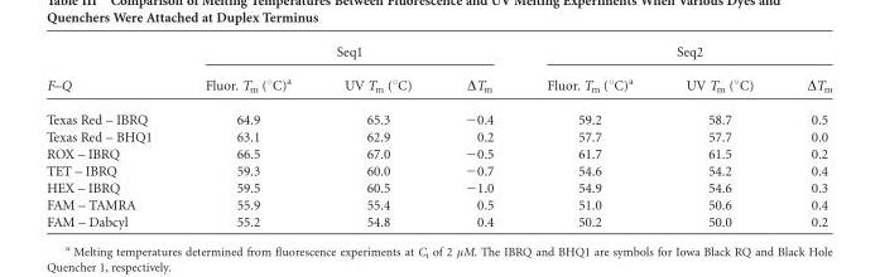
<table><thead><tr><td rowspan="2">F–Q</td><td colspan="3">Seq1</td><td colspan="3">Seq2</td></tr><tr><td>Fluor. T<sub>m</sub> (°C)<sup>a</sup></td><td>UV T<sub>m</sub> (°C)</td><td>ΔT<sub>m</sub></td><td>Fluor. T<sub>m</sub> (°C)<sup>a</sup></td><td>UV T<sub>m</sub> (°C)</td><td>ΔT<sub>m</sub></td></tr></thead><tbody><tr><td>Texas Red – IBRQ</td><td>64.9</td><td>65.3</td><td>−0.4</td><td>59.2</td><td>58.7</td><td>0.5</td></tr><tr><td>Texas Red – BHQ1</td><td>63.1</td><td>62.9</td><td>0.2</td><td>57.7</td><td>57.7</td><td>0.0</td></tr><tr><td>ROX – IBRQ</td><td>66.5</td><td>67.0</td><td>−0.5</td><td>61.7</td><td>61.5</td><td>0.2</td></tr><tr><td>TET – IBRQ</td><td>59.3</td><td>60.0</td><td>−0.7</td><td>54.6</td><td>54.2</td><td>0.4</td></tr><tr><td>HEX – IBRQ</td><td>59.5</td><td>60.5</td><td>−1.0</td><td>54.9</td><td>54.6</td><td>0.3</td></tr><tr><td>FAM – TAMRA</td><td>55.9</td><td>55.4</td><td>0.5</td><td>51.0</td><td>50.6</td><td>0.4</td></tr><tr><td>FAM – Dabcyl</td><td>55.2</td><td>54.8</td><td>0.4</td><td>50.2</td><td>50.0</td><td>0.2</td></tr></tbody></table>